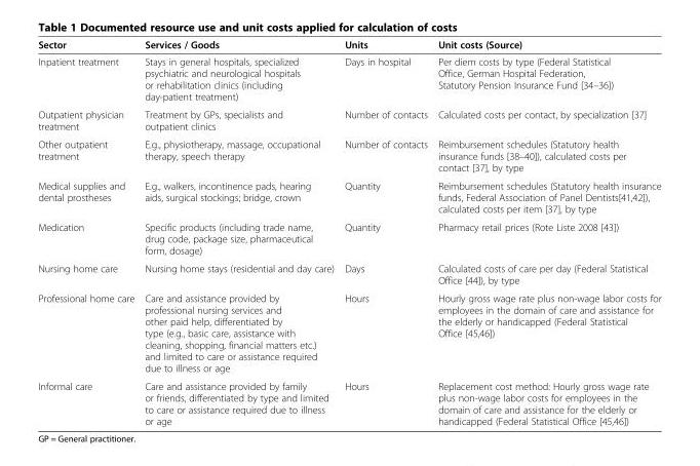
<table><thead><tr><td>Sector</td><td>Services / Goods</td><td>Units</td><td>Unit costs (Source)</td></tr></thead><tbody><tr><td>Inpatient treatment</td><td>Stays in general hospitals, specialized psychiatric and neurological hospitals or rehabilitation clinics (including day-patient treatment)</td><td>Days in hospital</td><td>Per diem costs by type (Federal Statistical Office, German Hospital Federation, Statutory Pension Insurance Fund [34–36])</td></tr><tr><td>Outpatient physician treatment</td><td>Treatment by GPs, specialists and outpatient clinics</td><td>Number of contacts</td><td>Calculated costs per contact, by specialization [37]</td></tr><tr><td>Other outpatient treatment</td><td>E.g., physiotherapy, massage, occupational therapy, speech therapy</td><td>Number of contacts</td><td>Reimbursement schedules (Statutory health insurance funds [38–40]), calculated costs per contact [37], by type</td></tr><tr><td>Medical supplies and dental prostheses</td><td>E.g., walkers, incontinence pads, hearing aids, surgical stockings; bridge, crown</td><td>Quantity</td><td>Reimbursement schedules (Statutory health insurance funds, Federal Association of Panel Dentists[41,42]), calculated costs per item [37], by type</td></tr><tr><td>Medication</td><td>Specific products (including trade name, drug code, package size, pharmaceutical form, dosage)</td><td>Quantity</td><td>Pharmacy retail prices (Rote Liste 2008 [43])</td></tr><tr><td>Nursing home care</td><td>Nursing home stays (residential and day care)</td><td>Days</td><td>Calculated costs of care per day (Federal Statistical Office [44]), by type</td></tr><tr><td>Professional home care</td><td>Care and assistance provided by professional nursing services and other paid help, differentiated by type (e.g., basic care, assistance with cleaning, shopping, financial matters etc.) and limited to care or assistance required due to illness or age</td><td>Hours</td><td>Hourly gross wage rate plus non-wage labor costs for employees in the domain of care and assistance for the elderly or handicapped (Federal Statistical Office [45,46])</td></tr><tr><td>Informal care</td><td>Care and assistance provided by family or friends, differentiated by type and limited to care or assistance required due to illness or age</td><td>Hours</td><td>Replacement cost method: Hourly gross wage rate plus non-wage labor costs for employees in the domain of care and assistance for the elderly or handicapped (Federal Statistical Office [45,46])</td></tr></tbody></table>